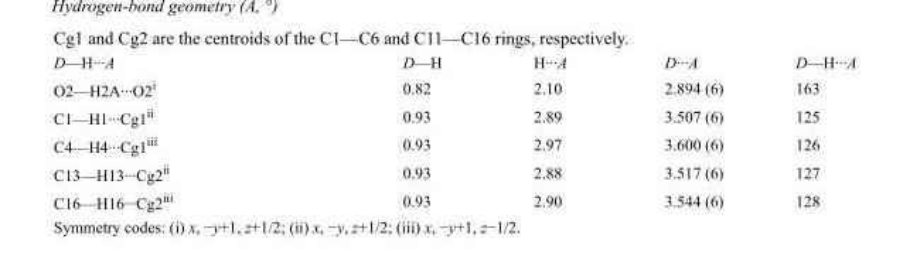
<table><tbody><tr><td>D—H···A</td><td>D—H</td><td>H···A</td><td>D···A</td><td>D—H···A</td></tr><tr><td>O2—H2A···O2<sup>i</sup></td><td>0.82</td><td>2.10</td><td>2.894 (6)</td><td>163</td></tr><tr><td>C1—H1···Cg1<sup>ii</sup></td><td>0.93</td><td>2.89</td><td>3.507 (6)</td><td>125</td></tr><tr><td>C4—H4···Cg1<sup>iii</sup></td><td>0.93</td><td>2.97</td><td>3.600 (6)</td><td>126</td></tr><tr><td>C13—H13···Cg2<sup>ii</sup></td><td>0.93</td><td>2.88</td><td>3.517 (6)</td><td>127</td></tr><tr><td>C16—H16···Cg2<sup>iii</sup></td><td>0.93</td><td>2.90</td><td>3.544 (6)</td><td>128</td></tr></tbody></table>